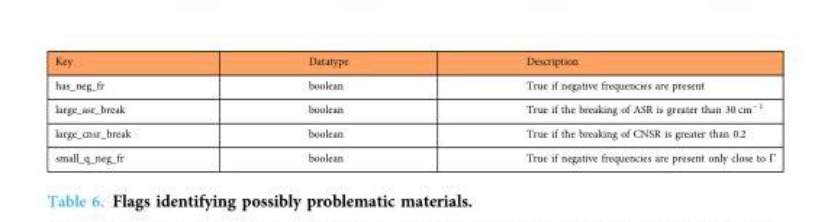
<table><thead><tr><td>Key</td><td>Datatype</td><td>Description</td></tr></thead><tbody><tr><td>has_neg_fr</td><td>boolean</td><td>True if negative frequencies are present</td></tr><tr><td>large_asr_break</td><td>boolean</td><td>True if the breaking of ASR is greater than 30 cm <sup>− 1</sup></td></tr><tr><td>large_cnsr_break</td><td>boolean</td><td>True if the breaking of CNSR is greater than 0.2</td></tr><tr><td>small_q_neg_fr</td><td>boolean</td><td>True if negative frequencies are present only close to Γ</td></tr></tbody></table>